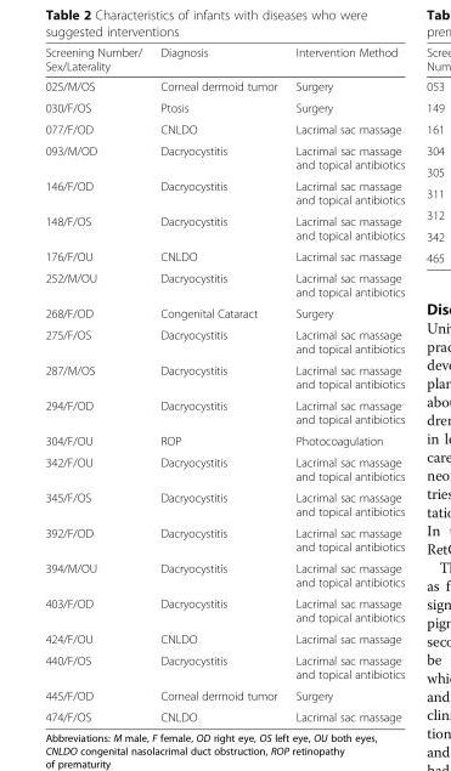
<table><thead><tr><td>Screening Number/ Sex/Laterality</td><td>Diagnosis</td><td>Intervention Method</td></tr></thead><tbody><tr><td>025/M/OS</td><td>Corneal dermoid tumor</td><td>Surgery</td></tr><tr><td>030/F/OS</td><td>Ptosis</td><td>Surgery</td></tr><tr><td>077/F/OD</td><td>CNLDO</td><td>Lacrimal sac massage</td></tr><tr><td>093/M/OD</td><td>Dacryocystitis</td><td>Lacrimal sac massage and topical antibiotics</td></tr><tr><td>146/F/OD</td><td>Dacryocystitis</td><td>Lacrimal sac massage and topical antibiotics</td></tr><tr><td>148/F/OS</td><td>Dacryocystitis</td><td>Lacrimal sac massage and topical antibiotics</td></tr><tr><td>176/F/OU</td><td>CNLDO</td><td>Lacrimal sac massage</td></tr><tr><td>252/M/OU</td><td>Dacryocystitis</td><td>Lacrimal sac massage and topical antibiotics</td></tr><tr><td>268/F/OD</td><td>Congenital Cataract</td><td>Surgery</td></tr><tr><td>275/F/OS</td><td>Dacryocystitis</td><td>Lacrimal sac massage and topical antibiotics</td></tr><tr><td>287/M/OS</td><td>Dacryocystitis</td><td>Lacrimal sac massage and topical antibiotics</td></tr><tr><td>294/F/OD</td><td>Dacryocystitis</td><td>Lacrimal sac massage and topical antibiotics</td></tr><tr><td>304/F/OU</td><td>ROP</td><td>Photocoagulation</td></tr><tr><td>342/F/OU</td><td>Dacryocystitis</td><td>Lacrimal sac massage and topical antibiotics</td></tr><tr><td>345/F/OS</td><td>Dacryocystitis</td><td>Lacrimal sac massage and topical antibiotics</td></tr><tr><td>392/F/OD</td><td>Dacryocystitis</td><td>Lacrimal sac massage and topical antibiotics</td></tr><tr><td>394/M/OU</td><td>Dacryocystitis</td><td>Lacrimal sac massage and topical antibiotics</td></tr><tr><td>403/F/OD</td><td>Dacryocystitis</td><td>Lacrimal sac massage and topical antibiotics</td></tr><tr><td>424/F/OU</td><td>CNLDO</td><td>Lacrimal sac massage</td></tr><tr><td>440/F/OS</td><td>Dacryocystitis</td><td>Lacrimal sac massage and topical antibiotics</td></tr><tr><td>445/F/OD</td><td>Corneal dermoid tumor</td><td>Surgery</td></tr><tr><td>474/F/OS</td><td>CNLDO</td><td>Lacrimal sac massage</td></tr></tbody></table>